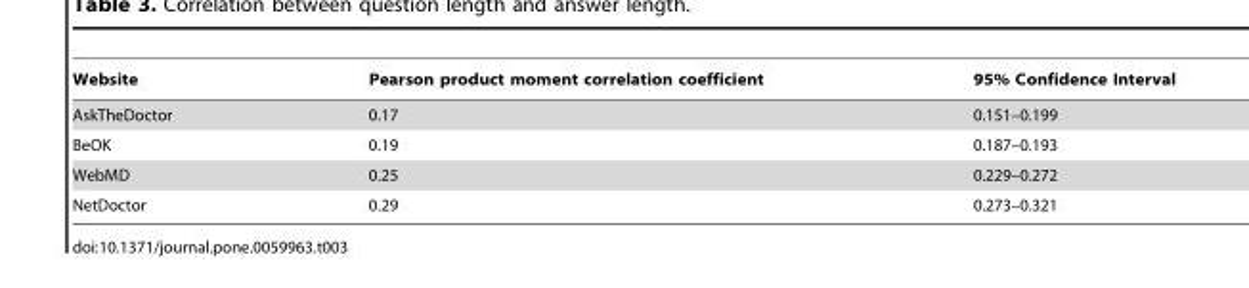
<table><thead><tr><td>Website</td><td>Pearson product moment correlation coefficient</td><td>95% Confidence Interval</td></tr></thead><tbody><tr><td>AskTheDoctor</td><td>0.17</td><td>0.151–0.199</td></tr><tr><td>BeOK</td><td>0.19</td><td>0.187–0.193</td></tr><tr><td>WebMD</td><td>0.25</td><td>0.229–0.272</td></tr><tr><td>NetDoctor</td><td>0.29</td><td>0.273–0.321</td></tr></tbody></table>